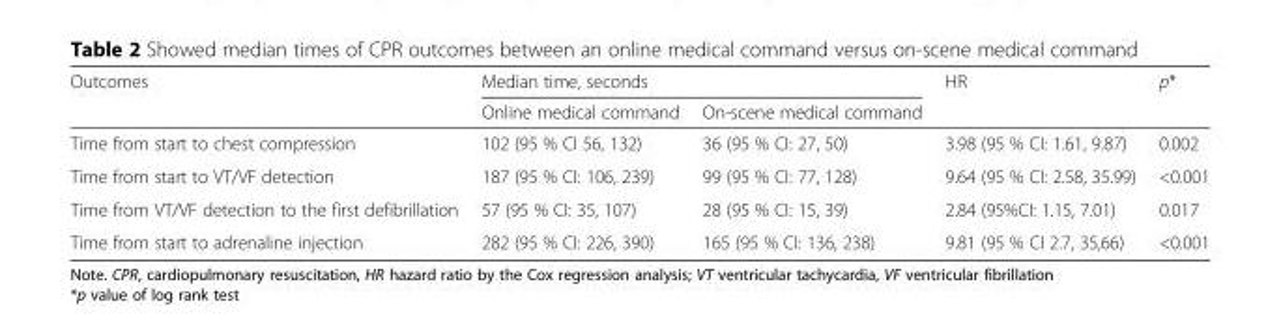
<table><thead><tr><td rowspan="2">Outcomes</td><td colspan="2">Median time, seconds</td><td rowspan="2">HR</td><td rowspan="2">p*</td></tr><tr><td>Online medical command</td><td>On-scene medical command</td></tr></thead><tbody><tr><td>Time from start to chest compression</td><td>102 (95 % CI 56, 132)</td><td>36 (95 % CI: 27, 50)</td><td>3.98 (95 % CI: 1.61, 9.87)</td><td>0.002</td></tr><tr><td>Time from start to VT/VF detection</td><td>187 (95 % CI: 106, 239)</td><td>99 (95 % CI: 77, 128)</td><td>9.64 (95 % CI: 2.58, 35.99)</td><td>&lt;0.001</td></tr><tr><td>Time from VT/VF detection to the first defibrillation</td><td>57 (95 % CI: 35, 107)</td><td>28 (95 % CI: 15, 39)</td><td>2.84 (95%CI: 1.15, 7.01)</td><td>0.017</td></tr><tr><td>Time from start to adrenaline injection</td><td>282 (95 % CI: 226, 390)</td><td>165 (95 % CI: 136, 238)</td><td>9.81 (95 % CI 2.7, 35,66)</td><td>&lt;0.001</td></tr></tbody></table>